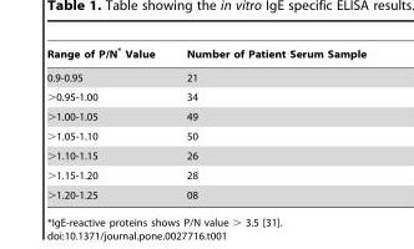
<table><thead><tr><td>Range of P/N* Value</td><td>Number of Patient Serum Sample</td></tr></thead><tbody><tr><td>0.9-0.95</td><td>21</td></tr><tr><td>&gt;0.95-1.00</td><td>34</td></tr><tr><td>&gt;1.00-1.05</td><td>49</td></tr><tr><td>&gt;1.05-1.10</td><td>50</td></tr><tr><td>&gt;1.10-1.15</td><td>26</td></tr><tr><td>&gt;1.15-1.20</td><td>28</td></tr><tr><td>&gt;1.20-1.25</td><td>08</td></tr></tbody></table>